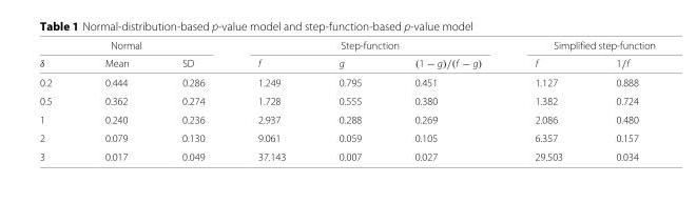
<table><thead><tr><td colspan="3">Normal</td><td colspan="3">Step-function</td><td colspan="2">Simplified step-function</td></tr><tr><td>δ</td><td>Mean</td><td>SD</td><td>f</td><td>g</td><td>(1 − g)/(f − g)</td><td>f</td><td>1/f</td></tr></thead><tbody><tr><td>0.2</td><td>0.444</td><td>0.286</td><td>1.249</td><td>0.795</td><td>0.451</td><td>1.127</td><td>0.888</td></tr><tr><td>0.5</td><td>0.362</td><td>0.274</td><td>1.728</td><td>0.555</td><td>0.380</td><td>1.382</td><td>0.724</td></tr><tr><td>1</td><td>0.240</td><td>0.236</td><td>2.937</td><td>0.288</td><td>0.269</td><td>2.086</td><td>0.480</td></tr><tr><td>2</td><td>0.079</td><td>0.130</td><td>9.061</td><td>0.059</td><td>0.105</td><td>6.357</td><td>0.157</td></tr><tr><td>3</td><td>0.017</td><td>0.049</td><td>37.143</td><td>0.007</td><td>0.027</td><td>29.503</td><td>0.034</td></tr></tbody></table>